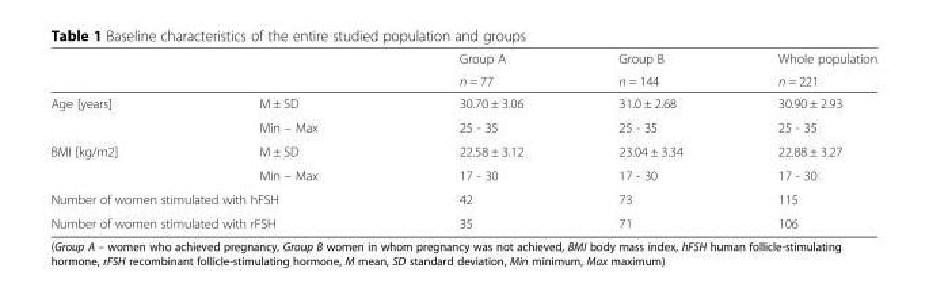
<table><thead><tr><td rowspan="2"></td><td rowspan="2"></td><td rowspan="2">Group A n = 77</td><td rowspan="2">Group B n = 144</td><td rowspan="2">Whole population n = 221</td></tr><tr></tr></thead><tbody><tr><td rowspan="2">Age [years]</td><td>M ± SD</td><td>30.70 ± 3.06</td><td>31.0 ± 2.68</td><td>30.90 ± 2.93</td></tr><tr><td>Min – Max</td><td>25 - 35</td><td>25 - 35</td><td>25 - 35</td></tr><tr><td rowspan="2">BMI [kg/m2]</td><td>M ± SD</td><td>22.58 ± 3.12</td><td>23.04 ± 3.34</td><td>22.88 ± 3.27</td></tr><tr><td>Min – Max</td><td>17 - 30</td><td>17 - 30</td><td>17 - 30</td></tr><tr><td colspan="2">Number of women stimulated with hFSH</td><td>42</td><td>73</td><td>115</td></tr><tr><td colspan="2">Number of women stimulated with rFSH</td><td>35</td><td>71</td><td>106</td></tr></tbody></table>